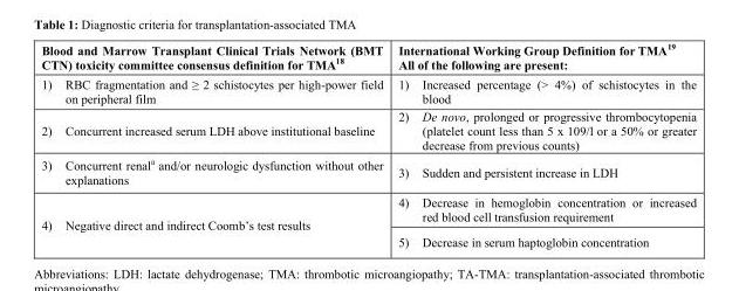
<table><thead><tr><td>Blood and Marrow Transplant Clinical Trials Network (BMT CTN) toxicity committee consensus definition for TMA<sup>18</sup></td><td>International Working Group Definition for TMA<sup>19</sup> All of the following are present:</td></tr></thead><tbody><tr><td>1) RBC fragmentation and ≥ 2 schistocytes per high-power field on peripheral film</td><td>1) Increased percentage (&gt; 4%) of schistocytes in the blood</td></tr><tr><td>2) Concurrent increased serum LDH above institutional baseline</td><td>2) De novo, prolonged or progressive thrombocytopenia (platelet count less than 5 x 109/l or a 50% or greater decrease from previous counts)</td></tr><tr><td>3) Concurrent renal<sup>a</sup> and/or neurologic dysfunction without other explanations</td><td>3) Sudden and persistent increase in LDH</td></tr><tr><td rowspan="2">4) Negative direct and indirect Coomb’s test results</td><td>4) Decrease in hemoglobin concentration or increased red blood cell transfusion requirement</td></tr><tr><td>5) Decrease in serum haptoglobin concentration</td></tr></tbody></table>